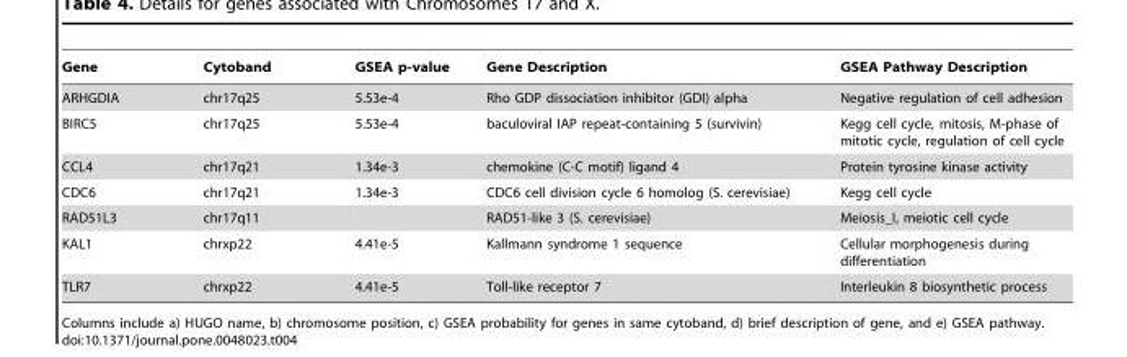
<table><thead><tr><td>Gene</td><td>Cytoband</td><td>GSEA p-value</td><td>Gene Description</td><td>GSEA Pathway Description</td></tr></thead><tbody><tr><td>ARHGDIA</td><td>chr17q25</td><td>5.53e-4</td><td>Rho GDP dissociation inhibitor (GDI) alpha</td><td>Negative regulation of cell adhesion</td></tr><tr><td>BIRC5</td><td>chr17q25</td><td>5.53e-4</td><td>baculoviral IAP repeat-containing 5 (survivin)</td><td>Kegg cell cycle, mitosis, M-phase of mitotic cycle, regulation of cell cycle</td></tr><tr><td>CCL4</td><td>chr17q21</td><td>1.34e-3</td><td>chemokine (C-C motif) ligand 4</td><td>Protein tyrosine kinase activity</td></tr><tr><td>CDC6</td><td>chr17q21</td><td>1.34e-3</td><td>CDC6 cell division cycle 6 homolog (S. cerevisiae)</td><td>Kegg cell cycle</td></tr><tr><td>RAD51L3</td><td>chr17q11</td><td></td><td>RAD51-like 3 (S. cerevisiae)</td><td>Meiosis_I, meiotic cell cycle</td></tr><tr><td>KAL1</td><td>chrxp22</td><td>4.41e-5</td><td>Kallmann syndrome 1 sequence</td><td>Cellular morphogenesis during differentiation</td></tr><tr><td>TLR7</td><td>chrxp22</td><td>4.41e-5</td><td>Toll-like receptor 7</td><td>Interleukin 8 biosynthetic process</td></tr></tbody></table>